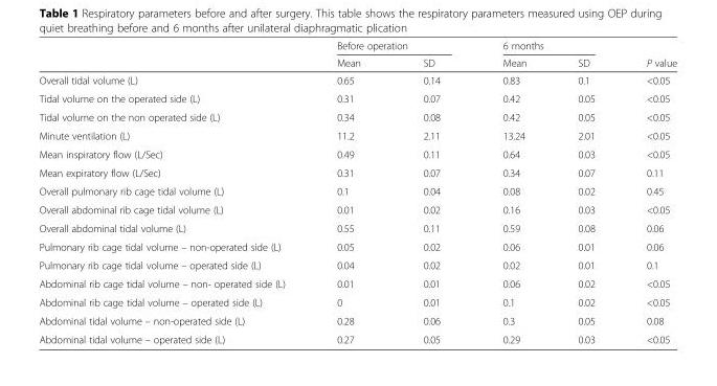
<table><thead><tr><td rowspan="2"></td><td colspan="2">Before operation</td><td colspan="2">6 months</td><td rowspan="2">P value</td></tr><tr><td>Mean</td><td>SD</td><td>Mean</td><td>SD</td></tr></thead><tbody><tr><td>Overall tidal volume (L)</td><td>0.65</td><td>0.14</td><td>0.83</td><td>0.1</td><td>&lt;0.05</td></tr><tr><td>Tidal volume on the operated side (L)</td><td>0.31</td><td>0.07</td><td>0.42</td><td>0.05</td><td>&lt;0.05</td></tr><tr><td>Tidal volume on the non operated side (L)</td><td>0.34</td><td>0.08</td><td>0.42</td><td>0.05</td><td>&lt;0.05</td></tr><tr><td>Minute ventilation (L)</td><td>11.2</td><td>2.11</td><td>13.24</td><td>2.01</td><td>&lt;0.05</td></tr><tr><td>Mean inspiratory flow (L/Sec)</td><td>0.49</td><td>0.11</td><td>0.64</td><td>0.03</td><td>&lt;0.05</td></tr><tr><td>Mean expiratory flow (L/Sec)</td><td>0.31</td><td>0.07</td><td>0.34</td><td>0.07</td><td>0.11</td></tr><tr><td>Overall pulmonary rib cage tidal volume (L)</td><td>0.1</td><td>0.04</td><td>0.08</td><td>0.02</td><td>0.45</td></tr><tr><td>Overall abdominal rib cage tidal volume (L)</td><td>0.01</td><td>0.02</td><td>0.16</td><td>0.03</td><td>&lt;0.05</td></tr><tr><td>Overall abdominal tidal volume (L)</td><td>0.55</td><td>0.11</td><td>0.59</td><td>0.08</td><td>0.06</td></tr><tr><td>Pulmonary rib cage tidal volume – non-operated side (L)</td><td>0.05</td><td>0.02</td><td>0.06</td><td>0.01</td><td>0.06</td></tr><tr><td>Pulmonary rib cage tidal volume – operated side (L)</td><td>0.04</td><td>0.02</td><td>0.02</td><td>0.01</td><td>0.1</td></tr><tr><td>Abdominal rib cage tidal volume – non- operated side (L)</td><td>0.01</td><td>0.01</td><td>0.06</td><td>0.02</td><td>&lt;0.05</td></tr><tr><td>Abdominal rib cage tidal volume – operated side (L)</td><td>0</td><td>0.01</td><td>0.1</td><td>0.02</td><td>&lt;0.05</td></tr><tr><td>Abdominal tidal volume – non-operated side (L)</td><td>0.28</td><td>0.06</td><td>0.3</td><td>0.05</td><td>0.08</td></tr><tr><td>Abdominal tidal volume – operated side (L)</td><td>0.27</td><td>0.05</td><td>0.29</td><td>0.03</td><td>&lt;0.05</td></tr></tbody></table>